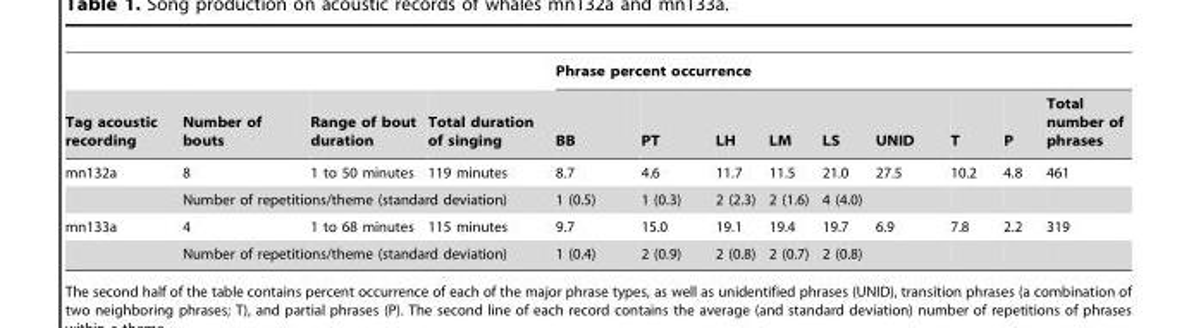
<table><thead><tr><td rowspan="2">Tag acoustic recording</td><td rowspan="2">Number of bouts</td><td rowspan="2">Range of bout duration</td><td rowspan="2">Total duration of singing</td><td colspan="9">Phrase percent occurrence</td></tr><tr><td>BB</td><td>PT</td><td>LH</td><td>LM</td><td>LS</td><td>UNID</td><td>T</td><td>P</td><td>Total number of phrases</td></tr></thead><tbody><tr><td rowspan="2">mn132a</td><td>8</td><td>1 to 50 minutes</td><td>119 minutes</td><td>8.7</td><td>4.6</td><td>11.7</td><td>11.5</td><td>21.0</td><td>27.5</td><td>10.2</td><td>4.8</td><td>461</td></tr><tr><td colspan="3">Number of repetitions/theme (standard deviation)</td><td>1 (0.5)</td><td>1 (0.3)</td><td>2 (2.3)</td><td>2 (1.6)</td><td>4 (4.0)</td><td></td><td></td><td></td><td></td></tr><tr><td rowspan="2">mn133a</td><td>4</td><td>1 to 68 minutes</td><td>115 minutes</td><td>9.7</td><td>15.0</td><td>19.1</td><td>19.4</td><td>19.7</td><td>6.9</td><td>7.8</td><td>2.2</td><td>319</td></tr><tr><td colspan="3">Number of repetitions/theme (standard deviation)</td><td>1 (0.4)</td><td>2 (0.9)</td><td>2 (0.8)</td><td>2 (0.7)</td><td>2 (0.8)</td><td></td><td></td><td></td><td></td></tr></tbody></table>